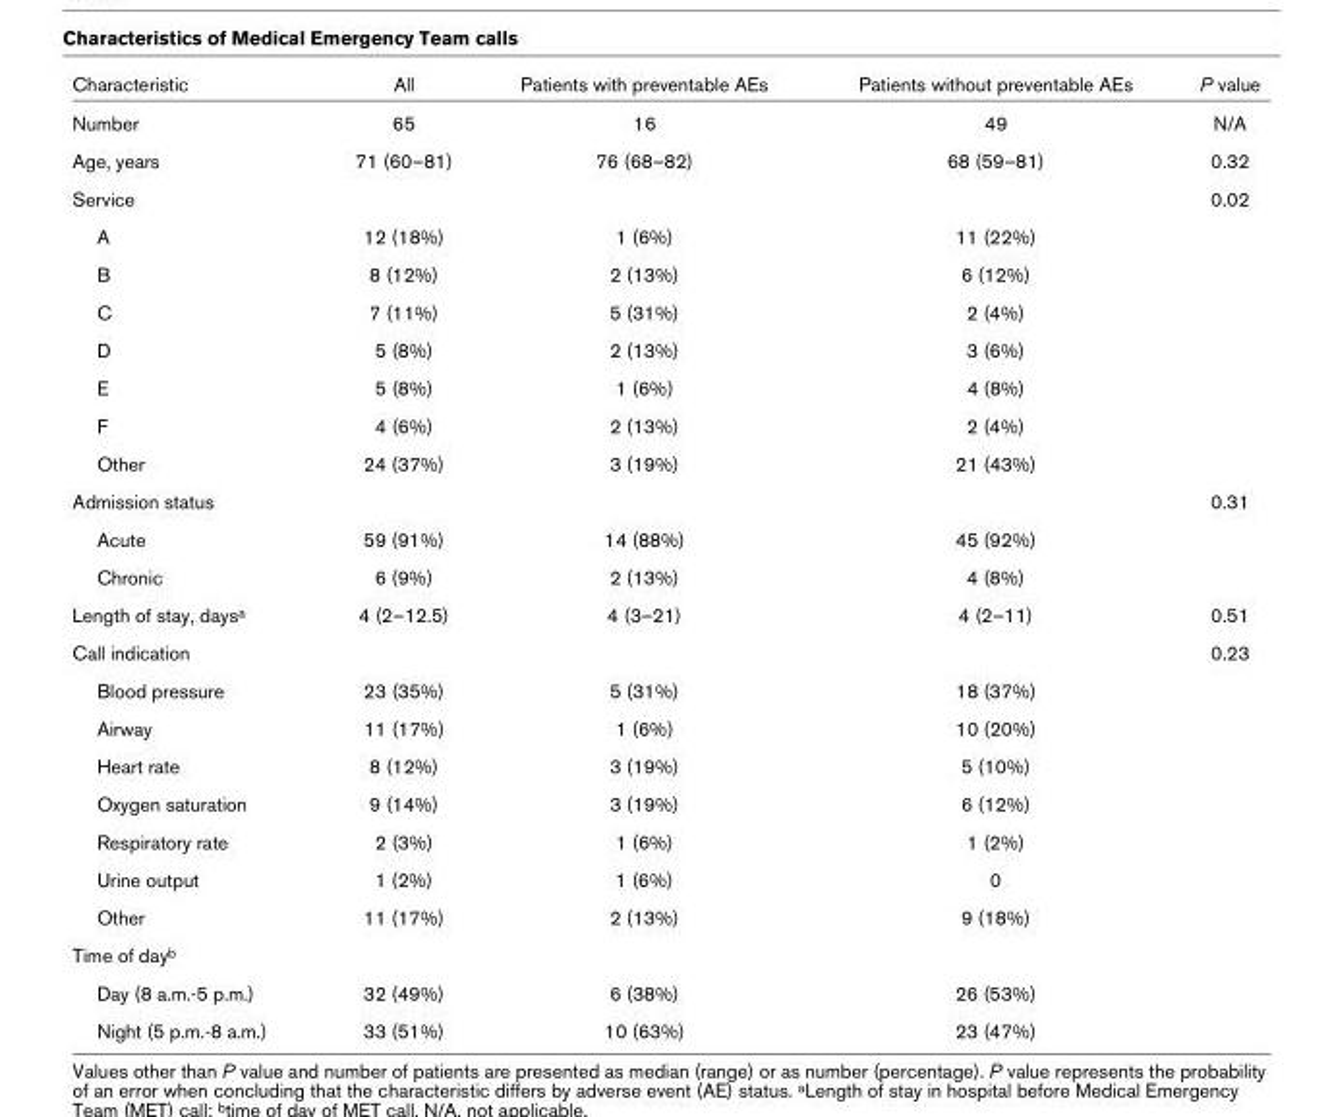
<table><thead><tr><td>Characteristic</td><td>All</td><td>Patients with preventable AEs</td><td>Patients without preventable AEs</td><td>P value</td></tr></thead><tbody><tr><td>Number</td><td>65</td><td>16</td><td>49</td><td>N/A</td></tr><tr><td>Age, years</td><td>71 (60–81)</td><td>76 (68–82)</td><td>68 (59–81)</td><td>0.32</td></tr><tr><td>Service</td><td></td><td></td><td></td><td>0.02</td></tr><tr><td>A</td><td>12 (18%)</td><td>1 (6%)</td><td>11 (22%)</td><td></td></tr><tr><td>B</td><td>8 (12%)</td><td>2 (13%)</td><td>6 (12%)</td><td></td></tr><tr><td>C</td><td>7 (11%)</td><td>5 (31%)</td><td>2 (4%)</td><td></td></tr><tr><td>D</td><td>5 (8%)</td><td>2 (13%)</td><td>3 (6%)</td><td></td></tr><tr><td>E</td><td>5 (8%)</td><td>1 (6%)</td><td>4 (8%)</td><td></td></tr><tr><td>F</td><td>4 (6%)</td><td>2 (13%)</td><td>2 (4%)</td><td></td></tr><tr><td>Other</td><td>24 (37%)</td><td>3 (19%)</td><td>21 (43%)</td><td></td></tr><tr><td>Admission status</td><td></td><td></td><td></td><td>0.31</td></tr><tr><td>Acute</td><td>59 (91%)</td><td>14 (88%)</td><td>45 (92%)</td><td></td></tr><tr><td>Chronic</td><td>6 (9%)</td><td>2 (13%)</td><td>4 (8%)</td><td></td></tr><tr><td>Length of stay, days<sup>a</sup></td><td>4 (2–12.5)</td><td>4 (3–21)</td><td>4 (2–11)</td><td>0.51</td></tr><tr><td>Call indication</td><td></td><td></td><td></td><td>0.23</td></tr><tr><td>Blood pressure</td><td>23 (35%)</td><td>5 (31%)</td><td>18 (37%)</td><td></td></tr><tr><td>Airway</td><td>11 (17%)</td><td>1 (6%)</td><td>10 (20%)</td><td></td></tr><tr><td>Heart rate</td><td>8 (12%)</td><td>3 (19%)</td><td>5 (10%)</td><td></td></tr><tr><td>Oxygen saturation</td><td>9 (14%)</td><td>3 (19%)</td><td>6 (12%)</td><td></td></tr><tr><td>Respiratory rate</td><td>2 (3%)</td><td>1 (6%)</td><td>1 (2%)</td><td></td></tr><tr><td>Urine output</td><td>1 (2%)</td><td>1 (6%)</td><td>0</td><td></td></tr><tr><td>Other</td><td>11 (17%)</td><td>2 (13%)</td><td>9 (18%)</td><td></td></tr><tr><td colspan="5">Time of day<sup>b</sup></td></tr><tr><td>Day (8 a.m.-5 p.m.)</td><td>32 (49%)</td><td>6 (38%)</td><td>26 (53%)</td><td></td></tr><tr><td>Night (5 p.m.-8 a.m.)</td><td>33 (51%)</td><td>10 (63%)</td><td>23 (47%)</td><td></td></tr></tbody></table>